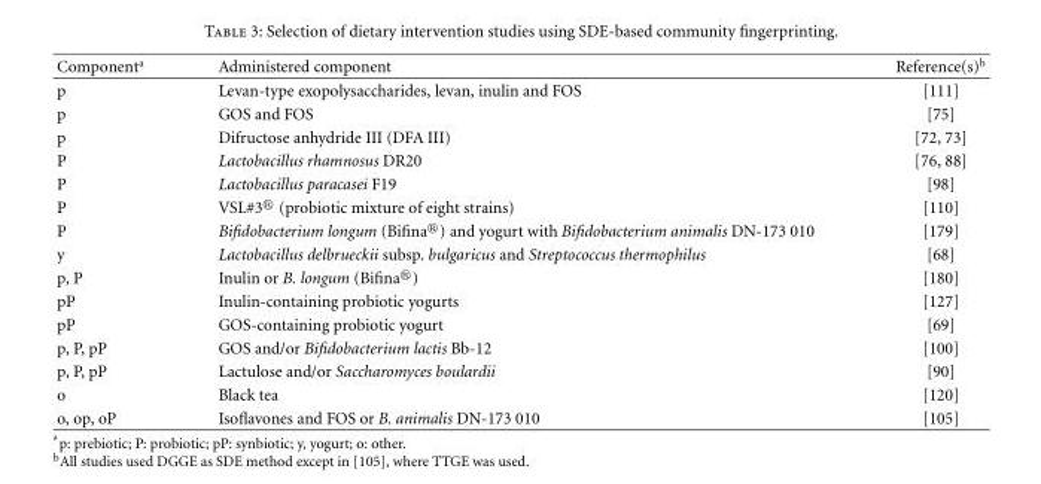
<table><thead><tr><td>Component<sup>a</sup></td><td>Administered component</td><td>Reference(s)<sup>b</sup></td></tr></thead><tbody><tr><td>p</td><td>Levan-type exopolysaccharides, levan, inulin and FOS</td><td>[111]</td></tr><tr><td>p</td><td>GOS and FOS</td><td>[75]</td></tr><tr><td>p</td><td>Difructose anhydride III (DFA III)</td><td>[72, 73]</td></tr><tr><td>P</td><td>Lactobacillus rhamnosus DR20</td><td>[76, 88]</td></tr><tr><td>P</td><td>Lactobacillus paracasei F19</td><td>[98]</td></tr><tr><td>P</td><td>VSL#3<sup>®</sup> (probiotic mixture of eight strains)</td><td>[110]</td></tr><tr><td>P</td><td>Bifidobacterium longum (Bifina<sup>®</sup>) and yogurt with Bifidobacterium animalis DN-173 010</td><td>[179]</td></tr><tr><td>y</td><td>Lactobacillus delbrueckii subsp. bulgaricus and Streptococcus thermophilus</td><td>[68]</td></tr><tr><td>p, P</td><td>Inulin or B. longum (Bifina<sup>®</sup>)</td><td>[180]</td></tr><tr><td>pP</td><td>Inulin-containing probiotic yogurts</td><td>[127]</td></tr><tr><td>pP</td><td>GOS-containing probiotic yogurt</td><td>[69]</td></tr><tr><td>p, P, pP</td><td>GOS and/or Bifidobacterium lactis Bb-12</td><td>[100]</td></tr><tr><td>p, P, pP</td><td>Lactulose and/or Saccharomyces boulardii</td><td>[90]</td></tr><tr><td>o</td><td>Black tea</td><td>[120]</td></tr><tr><td>o, op, oP</td><td>Isoflavones and FOS or B. animalis DN-173 010</td><td>[105]</td></tr></tbody></table>